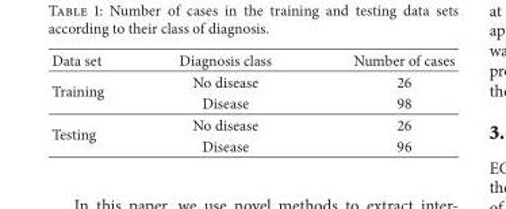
<table><thead><tr><td>Data set</td><td>Diagnosis class</td><td>Number of cases</td></tr></thead><tbody><tr><td rowspan="2">Training</td><td>No disease</td><td>26</td></tr><tr><td>Disease</td><td>98</td></tr><tr><td rowspan="2">Testing</td><td>No disease</td><td>26</td></tr><tr><td>Disease</td><td>96</td></tr></tbody></table>